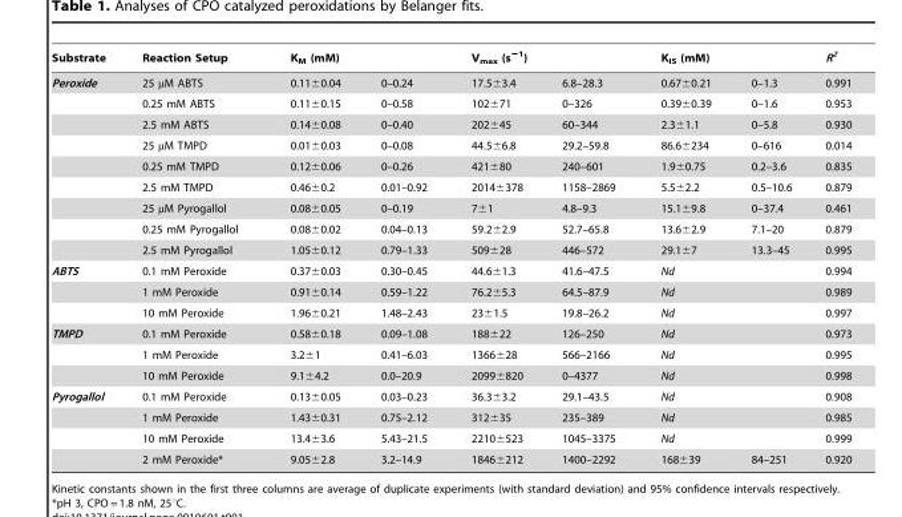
<table><thead><tr><td rowspan="2">Substrate Peroxide</td><td rowspan="2">Reaction Setup 25 µM ABTS</td><td colspan="2">K<sub>M</sub> (mM)</td><td colspan="2">V<sub>max</sub> (s<sup>−1</sup>)</td><td colspan="2">K<sub>IS</sub> (mM)</td><td rowspan="2">R<sup>2</sup> 0.991</td></tr><tr><td>0.11±0.04</td><td>0–0.24</td><td>17.5±3.4</td><td>6.8–28.3</td><td>0.67±0.21</td><td>0–1.3</td></tr></thead><tbody><tr><td></td><td>0.25 mM ABTS</td><td>0.11±0.15</td><td>0–0.58</td><td>102±71</td><td>0–326</td><td>0.39±0.39</td><td>0–1.6</td><td>0.953</td></tr><tr><td></td><td>2.5 mM ABTS</td><td>0.14±0.08</td><td>0–0.40</td><td>202±45</td><td>60–344</td><td>2.3±1.1</td><td>0–5.8</td><td>0.930</td></tr><tr><td></td><td>25 µM TMPD</td><td>0.01±0.03</td><td>0–0.08</td><td>44.5±6.8</td><td>29.2–59.8</td><td>86.6±234</td><td>0–616</td><td>0.014</td></tr><tr><td></td><td>0.25 mM TMPD</td><td>0.12±0.06</td><td>0–0.26</td><td>421±80</td><td>240–601</td><td>1.9±0.75</td><td>0.2–3.6</td><td>0.835</td></tr><tr><td></td><td>2.5 mM TMPD</td><td>0.46±0.2</td><td>0.01–0.92</td><td>2014±378</td><td>1158–2869</td><td>5.5±2.2</td><td>0.5–10.6</td><td>0.879</td></tr><tr><td></td><td>25 µM Pyrogallol</td><td>0.08±0.05</td><td>0–0.19</td><td>7±1</td><td>4.8–9.3</td><td>15.1±9.8</td><td>0–37.4</td><td>0.461</td></tr><tr><td></td><td>0.25 mM Pyrogallol</td><td>0.08±0.02</td><td>0.04–0.13</td><td>59.2±2.9</td><td>52.7–65.8</td><td>13.6±2.9</td><td>7.1–20</td><td>0.879</td></tr><tr><td></td><td>2.5 mM Pyrogallol</td><td>1.05±0.12</td><td>0.79–1.33</td><td>509±28</td><td>446–572</td><td>29.1±7</td><td>13.3–45</td><td>0.995</td></tr><tr><td rowspan="3">ABTS</td><td>0.1 mM Peroxide</td><td>0.37±0.03</td><td>0.30–0.45</td><td>44.6±1.3</td><td>41.6–47.5</td><td colspan="2">Nd</td><td>0.994</td></tr><tr><td>1 mM Peroxide</td><td>0.91±0.14</td><td>0.59–1.22</td><td>76.2±5.3</td><td>64.5–87.9</td><td colspan="2">Nd</td><td>0.989</td></tr><tr><td>10 mM Peroxide</td><td>1.96±0.21</td><td>1.48–2.43</td><td>23±1.5</td><td>19.8–26.2</td><td colspan="2">Nd</td><td>0.997</td></tr><tr><td rowspan="3">TMPD</td><td>0.1 mM Peroxide</td><td>0.58±0.18</td><td>0.09–1.08</td><td>188±22</td><td>126–250</td><td colspan="2">Nd</td><td>0.973</td></tr><tr><td>1 mM Peroxide</td><td>3.2±1</td><td>0.41–6.03</td><td>1366±28</td><td>566–2166</td><td colspan="2">Nd</td><td>0.995</td></tr><tr><td>10 mM Peroxide</td><td>9.1±4.2</td><td>0.0–20.9</td><td>2099±820</td><td>0–4377</td><td colspan="2">Nd</td><td>0.998</td></tr><tr><td rowspan="4">Pyrogallol</td><td>0.1 mM Peroxide</td><td>0.13±0.05</td><td>0.03–0.23</td><td>36.3±3.2</td><td>29.1–43.5</td><td colspan="2">Nd</td><td>0.908</td></tr><tr><td>1 mM Peroxide</td><td>1.43±0.31</td><td>0.75–2.12</td><td>312±35</td><td>235–389</td><td colspan="2">Nd</td><td>0.985</td></tr><tr><td>10 mM Peroxide</td><td>13.4±3.6</td><td>5.43–21.5</td><td>2210±523</td><td>1045–3375</td><td colspan="2">Nd</td><td>0.999</td></tr><tr><td>2 mM Peroxide*</td><td>9.05±2.8</td><td>3.2–14.9</td><td>1846±212</td><td>1400–2292</td><td>168±39</td><td>84–251</td><td>0.920</td></tr></tbody></table>